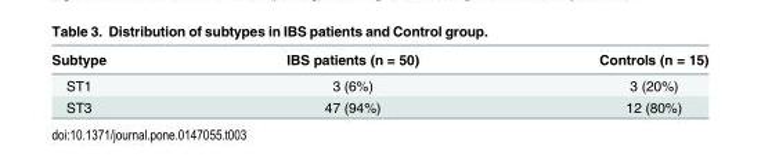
<table><thead><tr><td>Subtype</td><td>IBS patients (n = 50)</td><td>Controls (n = 15)</td></tr></thead><tbody><tr><td>ST1</td><td>3 (6%)</td><td>3 (20%)</td></tr><tr><td>ST3</td><td>47 (94%)</td><td>12 (80%)</td></tr></tbody></table>